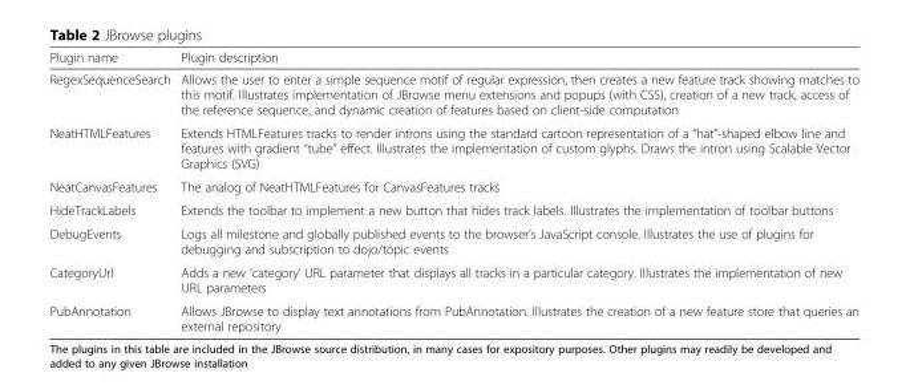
<table><thead><tr><td>Plugin name</td><td>Plugin description</td></tr></thead><tbody><tr><td>RegexSequenceSearch</td><td>Allows the user to enter a simple sequence motif of regular expression, then creates a new feature track showing matches to this motif. Illustrates implementation of JBrowse menu extensions and popups (with CSS), creation of a new track, access of the reference sequence, and dynamic creation of features based on client-side computation</td></tr><tr><td>NeatHTMLFeatures</td><td>Extends HTMLFeatures tracks to render introns using the standard cartoon representation of a “hat”-shaped elbow line and features with gradient “tube” effect. Illustrates the implementation of custom glyphs. Draws the intron using Scalable Vector Graphics (SVG)</td></tr><tr><td>NeatCanvasFeatures</td><td>The analog of NeatHTMLFeatures for CanvasFeatures tracks</td></tr><tr><td>HideTrackLabels</td><td>Extends the toolbar to implement a new button that hides track labels. Illustrates the implementation of toolbar buttons</td></tr><tr><td>DebugEvents</td><td>Logs all milestone and globally published events to the browser’s JavaScript console. Illustrates the use of plugins for debugging and subscription to dojo/topic events</td></tr><tr><td>CategoryUrl</td><td>Adds a new ‘category’ URL parameter that displays all tracks in a particular category. Illustrates the implementation of new URL parameters</td></tr><tr><td>PubAnnotation</td><td>Allows JBrowse to display text annotations from PubAnnotation. Illustrates the creation of a new feature store that queries an external repository</td></tr></tbody></table>